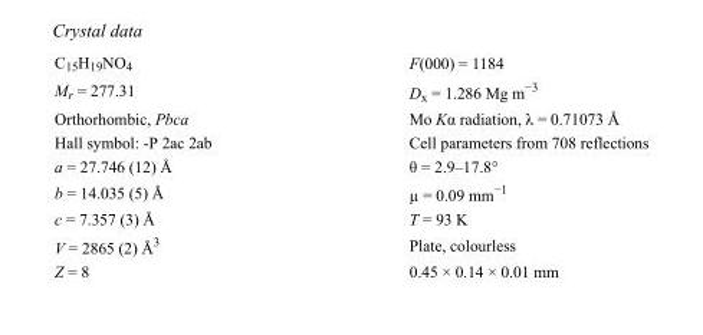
<table><tbody><tr><td>C<sub>15</sub>H<sub>19</sub>NO<sub>4</sub></td><td>F(000) = 1184</td></tr><tr><td>M<sub>r</sub> = 277.31</td><td>D<sub>x</sub> = 1.286 Mg m<sup>−3</sup></td></tr><tr><td>Orthorhombic, Pbca</td><td>Mo Kα radiation, λ = 0.71073 Å</td></tr><tr><td>Hall symbol: -P 2ac 2ab</td><td>Cell parameters from 708 reflections</td></tr><tr><td>a = 27.746 (12) Å</td><td>θ = 2.9–17.8°</td></tr><tr><td>b = 14.035 (5) Å</td><td>µ = 0.09 mm<sup>−1</sup></td></tr><tr><td>c = 7.357 (3) Å</td><td>T = 93 K</td></tr><tr><td>V = 2865 (2) Å<sup>3</sup></td><td>Plate, colourless</td></tr><tr><td>Z = 8</td><td>0.45 × 0.14 × 0.01 mm</td></tr></tbody></table>